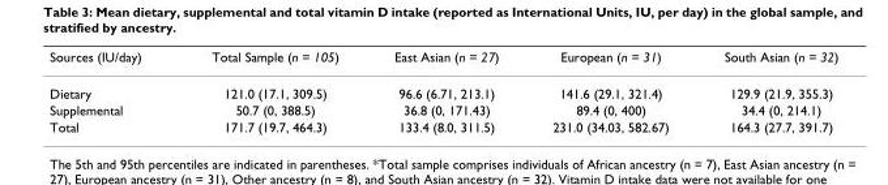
<table><thead><tr><td>Sources (IU/day)</td><td>Total Sample (n = 105)</td><td>East Asian (n = 27)</td><td>European (n = 31)</td><td>South Asian (n = 32)</td></tr></thead><tbody><tr><td>Dietary</td><td>121.0 (17.1, 309.5)</td><td>96.6 (6.71, 213.1)</td><td>141.6 (29.1, 321.4)</td><td>129.9 (21.9, 355.3)</td></tr><tr><td>Supplemental</td><td>50.7 (0, 388.5)</td><td>36.8 (0, 171.43)</td><td>89.4 (0, 400)</td><td>34.4 (0, 214.1)</td></tr><tr><td>Total</td><td>171.7 (19.7, 464.3)</td><td>133.4 (8.0, 311.5)</td><td>231.0 (34.03, 582.67)</td><td>164.3 (27.7, 391.7)</td></tr></tbody></table>